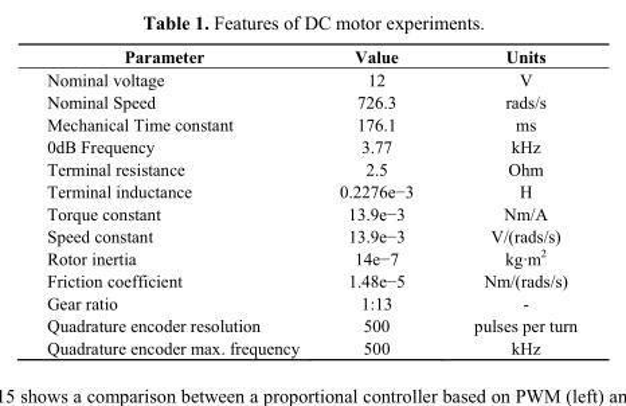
<table><thead><tr><td>Parameter</td><td>Value</td><td>Units</td></tr></thead><tbody><tr><td>Nominal voltage</td><td>12</td><td>V</td></tr><tr><td>Nominal Speed</td><td>726.3</td><td>rads/s</td></tr><tr><td>Mechanical Time constant</td><td>176.1</td><td>ms</td></tr><tr><td>0dB Frequency</td><td>3.77</td><td>kHz</td></tr><tr><td>Terminal resistance</td><td>2.5</td><td>Ohm</td></tr><tr><td>Terminal inductance</td><td>0.2276e−3</td><td>H</td></tr><tr><td>Torque constant</td><td>13.9e−3</td><td>Nm/A</td></tr><tr><td>Speed constant</td><td>13.9e−3</td><td>V/(rads/s)</td></tr><tr><td>Rotor inertia</td><td>14e−7</td><td>kg·m<sup>2</sup></td></tr><tr><td>Friction coefficient</td><td>1.48e−5</td><td>Nm/(rads/s)</td></tr><tr><td>Gear ratio</td><td>1:13</td><td>-</td></tr><tr><td>Quadrature encoder resolution</td><td>500</td><td>pulses per turn</td></tr><tr><td>Quadrature encoder max. frequency</td><td>500</td><td>kHz</td></tr></tbody></table>